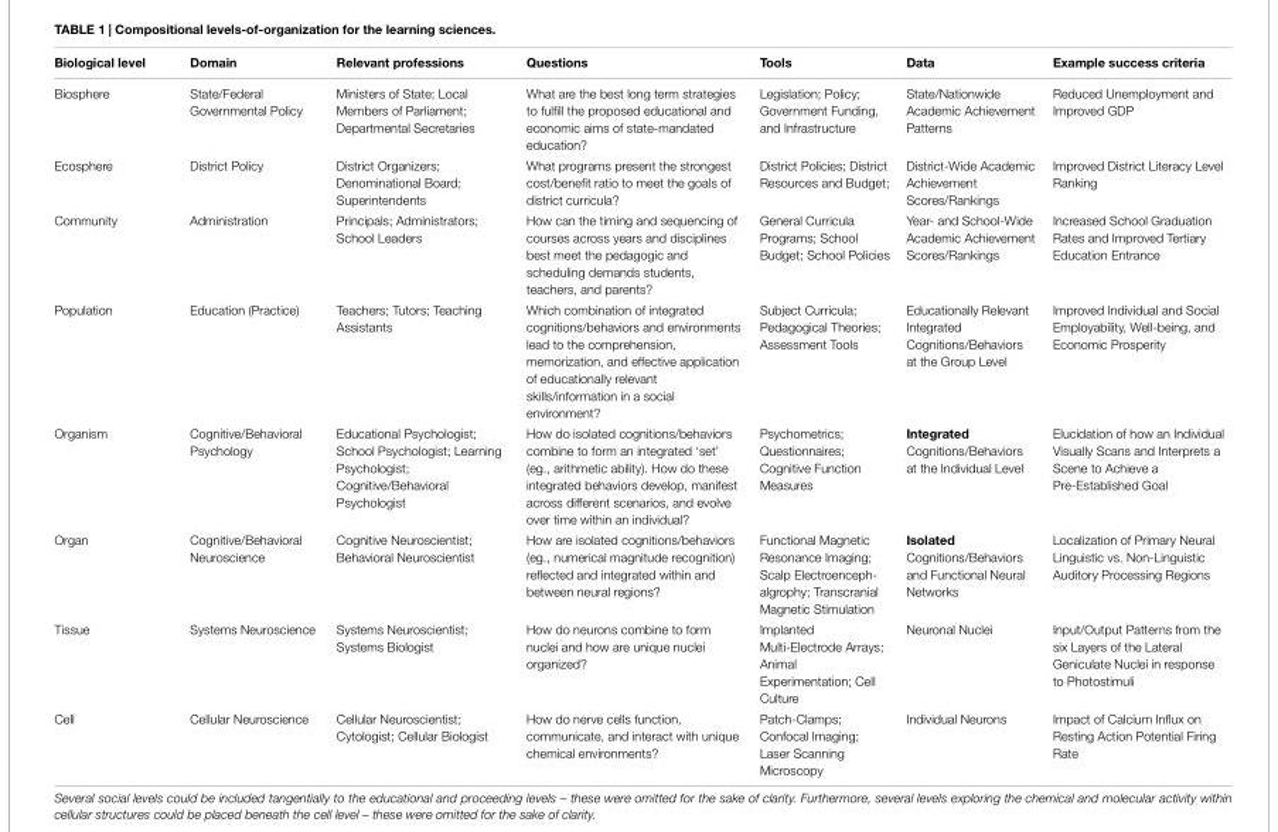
<table><thead><tr><td>Biological level</td><td>Domain</td><td>Relevant professions</td><td>Questions</td><td>Tools</td><td>Data</td><td>Example success criteria</td></tr></thead><tbody><tr><td>Biosphere</td><td>State/Federal Governmental Policy</td><td>Ministers of State; Local Members of Parliament; Departmental Secretaries</td><td>What are the best long term strategies to fulfill the proposed educational and economic aims of state-mandated education?</td><td>Legislation; Policy; Government Funding, and Infrastructure</td><td>State/Nationwide Academic Achievement Patterns</td><td>Reduced Unemployment and Improved GDP</td></tr><tr><td>Ecosphere</td><td>District Policy</td><td>District Organizers; Denominational Board; Superintendents</td><td>What programs present the strongest cost/benefit ratio to meet the goals of district curricula?</td><td>District Policies; District Resources and Budget;</td><td>District-Wide Academic Achievement Scores/Rankings</td><td>Improved District Literacy Level Ranking</td></tr><tr><td>Community</td><td>Administration</td><td>Principals; Administrators; School Leaders</td><td>How can the timing and sequencing of courses across years and disciplines best meet the pedagogic and scheduling demands students, teachers, and parents?</td><td>General Curricula Programs; School Budget; School Policies</td><td>Year- and School-Wide Academic Achievement Scores/Rankings</td><td>Increased School Graduation Rates and Improved Tertiary Education Entrance</td></tr><tr><td>Population</td><td>Education (Practice)</td><td>Teachers; Tutors; Teaching Assistants</td><td>Which combination of integrated cognitions/behaviors and environments lead to the comprehension, memorization, and effective application of educationally relevant skills/information in a social environment?</td><td>Subject Curricula; Pedagogical Theories; Assessment Tools</td><td>Educationally Relevant Integrated Cognitions/Behaviors at the Group Level</td><td>Improved Individual and Social Employability, Well-being, and Economic Prosperity</td></tr><tr><td>Organism</td><td>Cognitive/Behavioral Psychology</td><td>Educational Psychologist; School Psychologist; Learning Psychologist; Cognitive/Behavioral Psychologist</td><td>How do isolated cognitions/behaviors combine to form an integrated ‘set’ (eg., arithmetic ability). How do these integrated behaviors develop, manifest across different scenarios, and evolve over time within an individual?</td><td>Psychometrics; Questionnaires; Cognitive Function Measures</td><td>Integrated Cognitions/Behaviors at the Individual Level</td><td>Elucidation of how an Individual Visually Scans and Interprets a Scene to Achieve a Pre-Established Goal</td></tr><tr><td>Organ</td><td>Cognitive/Behavioral Neuroscience</td><td>Cognitive Neuroscientist; Behavioral Neuroscientist</td><td>How are isolated cognitions/behaviors (eg., numerical magnitude recognition) reflected and integrated within and between neural regions?</td><td>Functional Magnetic Resonance Imaging; Scalp Electroenceph- algrophy; Transcranial Magnetic Stimulation</td><td>Isolated Cognitions/Behaviors and Functional Neural Networks</td><td>Localization of Primary Neural Linguistic vs. Non-Linguistic Auditory Processing Regions</td></tr><tr><td>Tissue</td><td>Systems Neuroscience</td><td>Systems Neuroscientist; Systems Biologist</td><td>How do neurons combine to form nuclei and how are unique nuclei organized?</td><td>Implanted Multi-Electrode Arrays; Animal Experimentation; Cell Culture</td><td>Neuronal Nuclei</td><td>Input/Output Patterns from the six Layers of the Lateral Geniculate Nuclei in response to Photostimuli</td></tr><tr><td>Cell</td><td>Cellular Neuroscience</td><td>Cellular Neuroscientist; Cytologist; Cellular Biologist</td><td>How do nerve cells function, communicate, and interact with unique chemical environments?</td><td>Patch-Clamps; Confocal Imaging; Laser Scanning Microscopy</td><td>Individual Neurons</td><td>Impact of Calcium Influx on Resting Action Potential Firing Rate</td></tr></tbody></table>